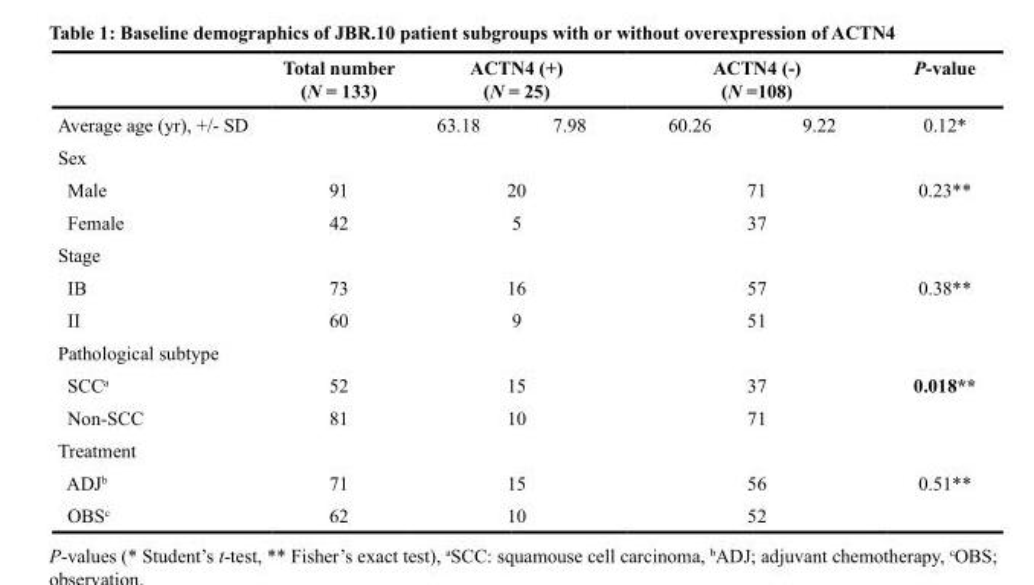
<table><thead><tr><td rowspan="2">Average age (yr), +/- SD</td><td rowspan="2">Total number (N = 133)</td><td colspan="2">ACTN4 (+) (N = 25)</td><td colspan="2">ACTN4 (-) (N =108)</td><td rowspan="2">P-value 0.12*</td></tr><tr><td>63.18</td><td>7.98</td><td>60.26</td><td>9.22</td></tr></thead><tbody><tr><td colspan="7">Sex</td></tr><tr><td>Male</td><td>91</td><td colspan="2">20</td><td colspan="2">71</td><td>0.23**</td></tr><tr><td>Female</td><td>42</td><td colspan="2">5</td><td colspan="2">37</td><td></td></tr><tr><td colspan="7">Stage</td></tr><tr><td>IB</td><td>73</td><td colspan="2">16</td><td colspan="2">57</td><td>0.38**</td></tr><tr><td>II</td><td>60</td><td colspan="2">9</td><td colspan="2">51</td><td></td></tr><tr><td colspan="7">Pathological subtype</td></tr><tr><td>SCC<sup>a</sup></td><td>52</td><td colspan="2">15</td><td colspan="2">37</td><td>0.018**</td></tr><tr><td>Non-SCC</td><td>81</td><td colspan="2">10</td><td colspan="2">71</td><td></td></tr><tr><td colspan="7">Treatment</td></tr><tr><td>ADJ<sup>b</sup></td><td>71</td><td colspan="2">15</td><td colspan="2">56</td><td>0.51**</td></tr><tr><td>OBS<sup>c</sup></td><td>62</td><td colspan="2">10</td><td colspan="2">52</td><td></td></tr></tbody></table>